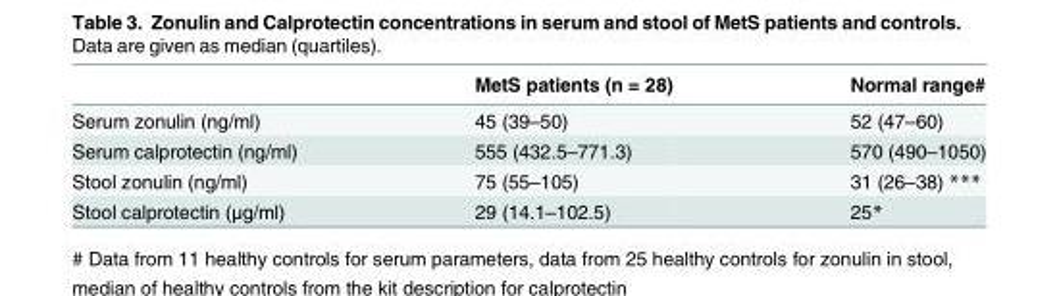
<table><thead><tr><td></td><td>MetS patients (n = 28)</td><td>Normal range#</td></tr></thead><tbody><tr><td>Serum zonulin (ng/ml)</td><td>45 (39–50)</td><td>52 (47–60)</td></tr><tr><td>Serum calprotectin (ng/ml)</td><td>555 (432.5–771.3)</td><td>570 (490–1050)</td></tr><tr><td>Stool zonulin (ng/ml)</td><td>75 (55–105)</td><td>31 (26–38) ***</td></tr><tr><td>Stool calprotectin (μg/ml)</td><td>29 (14.1–102.5)</td><td>25*</td></tr></tbody></table>